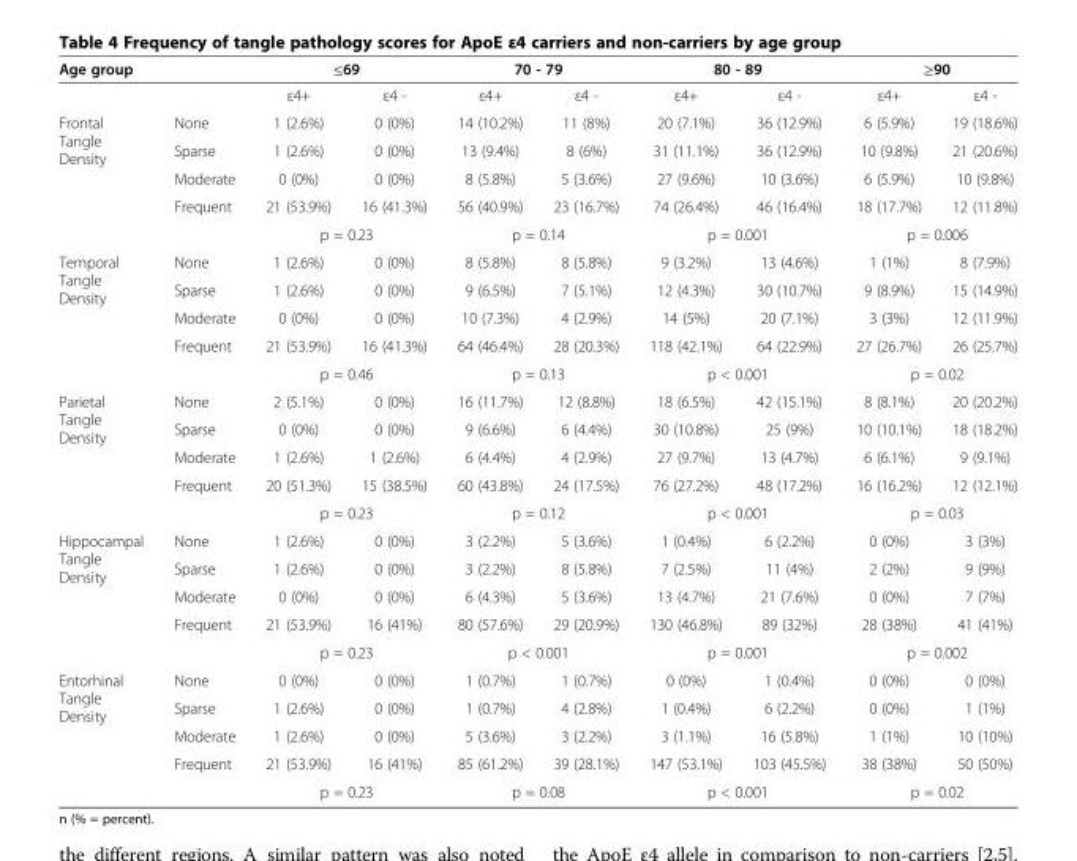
<table><thead><tr><td rowspan="2">Age group</td><td rowspan="2"></td><td colspan="2">≤69</td><td colspan="2">70 - 79</td><td colspan="2">80 - 89</td><td colspan="2">≥90</td></tr><tr><td>ε4+</td><td>ε4 -</td><td>ε4+</td><td>ε4 -</td><td>ε4+</td><td>ε4 -</td><td>ε4+</td><td>ε4 -</td></tr></thead><tbody><tr><td rowspan="5">Frontal Tangle Density</td><td>None</td><td>1 (2.6%)</td><td>0 (0%)</td><td>14 (10.2%)</td><td>11 (8%)</td><td>20 (7.1%)</td><td>36 (12.9%)</td><td>6 (5.9%)</td><td>19 (18.6%)</td></tr><tr><td>Sparse</td><td>1 (2.6%)</td><td>0 (0%)</td><td>13 (9.4%)</td><td>8 (6%)</td><td>31 (11.1%)</td><td>36 (12.9%)</td><td>10 (9.8%)</td><td>21 (20.6%)</td></tr><tr><td>Moderate</td><td>0 (0%)</td><td>0 (0%)</td><td>8 (5.8%)</td><td>5 (3.6%)</td><td>27 (9.6%)</td><td>10 (3.6%)</td><td>6 (5.9%)</td><td>10 (9.8%)</td></tr><tr><td>Frequent</td><td>21 (53.9%)</td><td>16 (41.3%)</td><td>56 (40.9%)</td><td>23 (16.7%)</td><td>74 (26.4%)</td><td>46 (16.4%)</td><td>18 (17.7%)</td><td>12 (11.8%)</td></tr><tr><td></td><td colspan="2">p = 0.23</td><td colspan="2">p = 0.14</td><td colspan="2">p = 0.001</td><td colspan="2">p = 0.006</td></tr><tr><td rowspan="5">Temporal Tangle Density</td><td>None</td><td>1 (2.6%)</td><td>0 (0%)</td><td>8 (5.8%)</td><td>8 (5.8%)</td><td>9 (3.2%)</td><td>13 (4.6%)</td><td>1 (1%)</td><td>8 (7.9%)</td></tr><tr><td>Sparse</td><td>1 (2.6%)</td><td>0 (0%)</td><td>9 (6.5%)</td><td>7 (5.1%)</td><td>12 (4.3%)</td><td>30 (10.7%)</td><td>9 (8.9%)</td><td>15 (14.9%)</td></tr><tr><td>Moderate</td><td>0 (0%)</td><td>0 (0%)</td><td>10 (7.3%)</td><td>4 (2.9%)</td><td>14 (5%)</td><td>20 (7.1%)</td><td>3 (3%)</td><td>12 (11.9%)</td></tr><tr><td>Frequent</td><td>21 (53.9%)</td><td>16 (41.3%)</td><td>64 (46.4%)</td><td>28 (20.3%)</td><td>118 (42.1%)</td><td>64 (22.9%)</td><td>27 (26.7%)</td><td>26 (25.7%)</td></tr><tr><td></td><td colspan="2">p = 0.46</td><td colspan="2">p = 0.13</td><td colspan="2">p &lt; 0.001</td><td colspan="2">p = 0.02</td></tr><tr><td rowspan="5">Parietal Tangle Density</td><td>None</td><td>2 (5.1%)</td><td>0 (0%)</td><td>16 (11.7%)</td><td>12 (8.8%)</td><td>18 (6.5%)</td><td>42 (15.1%)</td><td>8 (8.1%)</td><td>20 (20.2%)</td></tr><tr><td>Sparse</td><td>0 (0%)</td><td>0 (0%)</td><td>9 (6.6%)</td><td>6 (4.4%)</td><td>30 (10.8%)</td><td>25 (9%)</td><td>10 (10.1%)</td><td>18 (18.2%)</td></tr><tr><td>Moderate</td><td>1 (2.6%)</td><td>1 (2.6%)</td><td>6 (4.4%)</td><td>4 (2.9%)</td><td>27 (9.7%)</td><td>13 (4.7%)</td><td>6 (6.1%)</td><td>9 (9.1%)</td></tr><tr><td>Frequent</td><td>20 (51.3%)</td><td>15 (38.5%)</td><td>60 (43.8%)</td><td>24 (17.5%)</td><td>76 (27.2%)</td><td>48 (17.2%)</td><td>16 (16.2%)</td><td>12 (12.1%)</td></tr><tr><td></td><td colspan="2">p = 0.23</td><td colspan="2">p = 0.12</td><td colspan="2">p &lt; 0.001</td><td colspan="2">p = 0.03</td></tr><tr><td rowspan="5">Hippocampal Tangle Density</td><td>None</td><td>1 (2.6%)</td><td>0 (0%)</td><td>3 (2.2%)</td><td>5 (3.6%)</td><td>1 (0.4%)</td><td>6 (2.2%)</td><td>0 (0%)</td><td>3 (3%)</td></tr><tr><td>Sparse</td><td>1 (2.6%)</td><td>0 (0%)</td><td>3 (2.2%)</td><td>8 (5.8%)</td><td>7 (2.5%)</td><td>11 (4%)</td><td>2 (2%)</td><td>9 (9%)</td></tr><tr><td>Moderate</td><td>0 (0%)</td><td>0 (0%)</td><td>6 (4.3%)</td><td>5 (3.6%)</td><td>13 (4.7%)</td><td>21 (7.6%)</td><td>0 (0%)</td><td>7 (7%)</td></tr><tr><td>Frequent</td><td>21 (53.9%)</td><td>16 (41%)</td><td>80 (57.6%)</td><td>29 (20.9%)</td><td>130 (46.8%)</td><td>89 (32%)</td><td>28 (38%)</td><td>41 (41%)</td></tr><tr><td></td><td colspan="2">p = 0.23</td><td colspan="2">p &lt; 0.001</td><td colspan="2">p = 0.001</td><td colspan="2">p = 0.002</td></tr><tr><td rowspan="5">Entorhinal Tangle Density</td><td>None</td><td>0 (0%)</td><td>0 (0%)</td><td>1 (0.7%)</td><td>1 (0.7%)</td><td>0 (0%)</td><td>1 (0.4%)</td><td>0 (0%)</td><td>0 (0%)</td></tr><tr><td>Sparse</td><td>1 (2.6%)</td><td>0 (0%)</td><td>1 (0.7%)</td><td>4 (2.8%)</td><td>1 (0.4%)</td><td>6 (2.2%)</td><td>0 (0%)</td><td>1 (1%)</td></tr><tr><td>Moderate</td><td>1 (2.6%)</td><td>0 (0%)</td><td>5 (3.6%)</td><td>3 (2.2%)</td><td>3 (1.1%)</td><td>16 (5.8%)</td><td>1 (1%)</td><td>10 (10%)</td></tr><tr><td>Frequent</td><td>21 (53.9%)</td><td>16 (41%)</td><td>85 (61.2%)</td><td>39 (28.1%)</td><td>147 (53.1%)</td><td>103 (45.5%)</td><td>38 (38%)</td><td>50 (50%)</td></tr><tr><td></td><td colspan="2">p = 0.23</td><td colspan="2">p = 0.08</td><td colspan="2">p &lt; 0.001</td><td colspan="2">p = 0.02</td></tr></tbody></table>